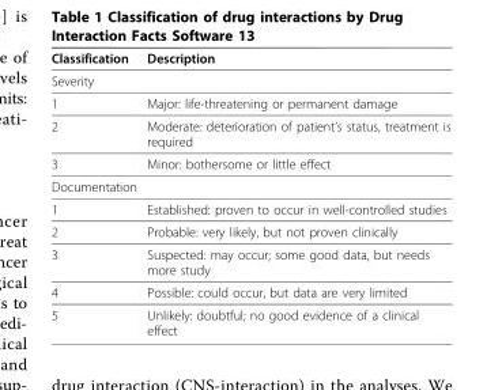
<table><thead><tr><td>Classification</td><td>Description</td></tr></thead><tbody><tr><td colspan="2">Severity</td></tr><tr><td>1</td><td>Major: life-threatening or permanent damage</td></tr><tr><td>2</td><td>Moderate: deterioration of patient’s status, treatment is required</td></tr><tr><td>3</td><td>Minor: bothersome or little effect</td></tr><tr><td colspan="2">Documentation</td></tr><tr><td>1</td><td>Established: proven to occur in well-controlled studies</td></tr><tr><td>2</td><td>Probable: very likely, but not proven clinically</td></tr><tr><td>3</td><td>Suspected: may occur; some good data, but needs more study</td></tr><tr><td>4</td><td>Possible: could occur, but data are very limited</td></tr><tr><td>5</td><td>Unlikely: doubtful; no good evidence of a clinical effect</td></tr></tbody></table>